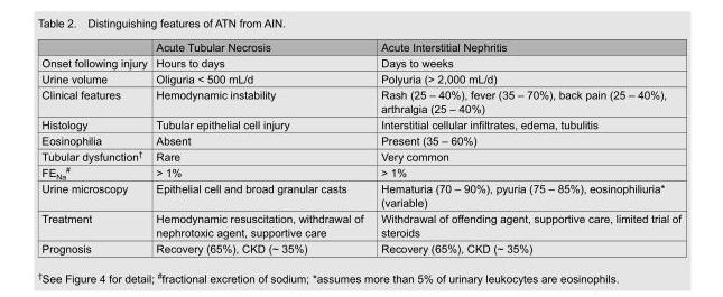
<table><thead><tr><td></td><td>Acute Tubular Necrosis</td><td>Acute Interstitial Nephritis</td></tr></thead><tbody><tr><td>Onset following injury</td><td>Hours to days</td><td>Days to weeks</td></tr><tr><td>Urine volume</td><td>Oliguria &lt; 500 mL/d</td><td>Polyuria (&gt; 2,000 mL/d)</td></tr><tr><td>Clinical features</td><td>Hemodynamic instability</td><td>Rash (25 – 40%), fever (35 – 70%), back pain (25 – 40%), arthralgia (25 – 40%)</td></tr><tr><td>Histology</td><td>Tubular epithelial cell injury</td><td>Interstitial cellular infiltrates, edema, tubulitis</td></tr><tr><td>Eosinophilia</td><td>Absent</td><td>Present (35 – 60%)</td></tr><tr><td>Tubular dysfunction<sup>†</sup></td><td>Rare</td><td>Very common</td></tr><tr><td>FE<sub>Na</sub> <sup>#</sup></td><td>&gt; 1%</td><td>&gt; 1%</td></tr><tr><td>Urine microscopy</td><td>Epithelial cell and broad granular casts</td><td>Hematuria (70 – 90%), pyuria (75 – 85%), eosinophiliuria* (variable)</td></tr><tr><td>Treatment</td><td>Hemodynamic resuscitation, withdrawal of nephrotoxic agent, supportive care</td><td>Withdrawal of offending agent, supportive care, limited trial of steroids</td></tr><tr><td>Prognosis</td><td>Recovery (65%), CKD (~ 35%)</td><td>Recovery (65%), CKD (~ 35%)</td></tr></tbody></table>